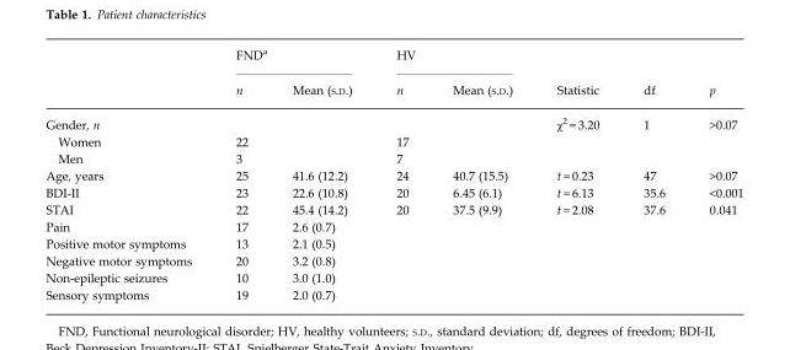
<table><thead><tr><td rowspan="2"></td><td colspan="2">FND<sup>a</sup></td><td colspan="2">HV</td><td rowspan="2">Statistic</td><td rowspan="2">df</td><td rowspan="2">p</td></tr><tr><td>n</td><td>Mean (S.D.)</td><td>n</td><td>Mean (S.D.)</td></tr></thead><tbody><tr><td>Gender, n</td><td></td><td></td><td></td><td></td><td>χ<sup>2</sup> = 3.20</td><td>1</td><td>&gt;0.07</td></tr><tr><td>Women</td><td colspan="2">22</td><td colspan="2">17</td><td></td><td></td><td></td></tr><tr><td>Men</td><td colspan="2">3</td><td colspan="2">7</td><td></td><td></td><td></td></tr><tr><td>Age, years</td><td>25</td><td>41.6 (12.2)</td><td>24</td><td>40.7 (15.5)</td><td>t = 0.23</td><td>47</td><td>&gt;0.07</td></tr><tr><td>BDI-II</td><td>23</td><td>22.6 (10.8)</td><td>20</td><td>6.45 (6.1)</td><td>t = 6.13</td><td>35.6</td><td>&lt;0.001</td></tr><tr><td>STAI</td><td>22</td><td>45.4 (14.2)</td><td>20</td><td>37.5 (9.9)</td><td>t = 2.08</td><td>37.6</td><td>0.041</td></tr><tr><td>Pain</td><td>17</td><td>2.6 (0.7)</td><td></td><td></td><td></td><td></td><td></td></tr><tr><td>Positive motor symptoms</td><td>13</td><td>2.1 (0.5)</td><td></td><td></td><td></td><td></td><td></td></tr><tr><td>Negative motor symptoms</td><td>20</td><td>3.2 (0.8)</td><td></td><td></td><td></td><td></td><td></td></tr><tr><td>Non-epileptic seizures</td><td>10</td><td>3.0 (1.0)</td><td></td><td></td><td></td><td></td><td></td></tr><tr><td>Sensory symptoms</td><td>19</td><td>2.0 (0.7)</td><td></td><td></td><td></td><td></td><td></td></tr></tbody></table>